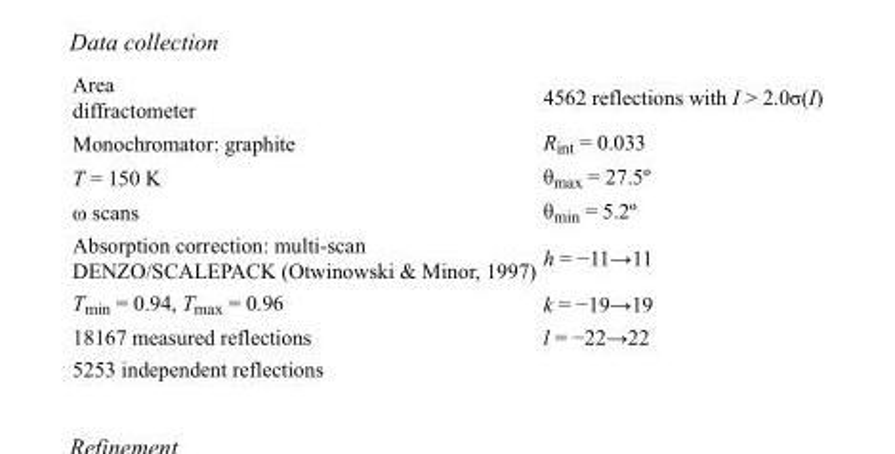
<table><tbody><tr><td>Area diffractometer</td><td>4562 reflections with I &gt; 2.0σ(I)</td></tr><tr><td>Monochromator: graphite</td><td>R<sub>int</sub> = 0.033</td></tr><tr><td>T = 150 K</td><td>θ<sub>max</sub> = 27.5º</td></tr><tr><td>ω scans</td><td>θ<sub>min</sub> = 5.2º</td></tr><tr><td>Absorption correction: multi-scan DENZO/SCALEPACK (Otwinowski &amp; Minor, 1997)</td><td>h = −11→11</td></tr><tr><td>T<sub>min</sub> = 0.94, T<sub>max</sub> = 0.96</td><td>k = −19→19</td></tr><tr><td>18167 measured reflections</td><td>l = −22→22</td></tr><tr><td>5253 independent reflections</td><td></td></tr></tbody></table>